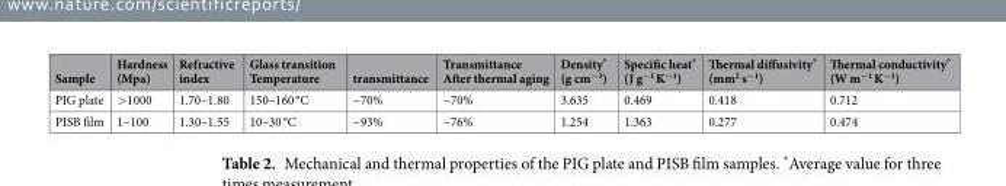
<table><thead><tr><td>Sample</td><td>Hardness (Mpa)</td><td>Refractive index</td><td>Glass transition Temperature</td><td>transmittance</td><td>Transmittance After thermal aging</td><td>Density* (g cm<sup>−3</sup>)</td><td>Specific heat* (J g<sup>−1</sup> K<sup>−1</sup>)</td><td>Thermal diffusivity* (mm<sup>2</sup> s<sup>−1</sup>)</td><td>Thermal conductivity* (W m<sup>−1</sup> K<sup>−1</sup>)</td></tr></thead><tbody><tr><td>PIG plate</td><td>&gt;1000</td><td>1.70–1.80</td><td>150–160 °C</td><td>~70%</td><td>~70%</td><td>3.635</td><td>0.469</td><td>0.418</td><td>0.712</td></tr><tr><td>PISB film</td><td>1–100</td><td>1.30–1.55</td><td>10–30 °C</td><td>~93%</td><td>~76%</td><td>1.254</td><td>1.363</td><td>0.277</td><td>0.474</td></tr></tbody></table>